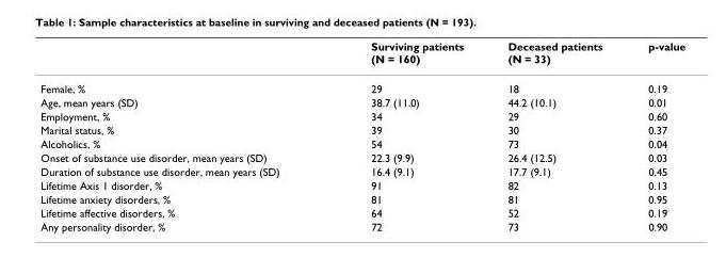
<table><thead><tr><td></td><td>Surviving patients (N = 160)</td><td>Deceased patients (N = 33)</td><td>p-value</td></tr></thead><tbody><tr><td>Female, %</td><td>29</td><td>18</td><td>0.19</td></tr><tr><td>Age, mean years (SD)</td><td>38.7 (11.0)</td><td>44.2 (10.1)</td><td>0.01</td></tr><tr><td>Employment, %</td><td>34</td><td>29</td><td>0.60</td></tr><tr><td>Marital status, %</td><td>39</td><td>30</td><td>0.37</td></tr><tr><td>Alcoholics, %</td><td>54</td><td>73</td><td>0.04</td></tr><tr><td>Onset of substance use disorder, mean years (SD)</td><td>22.3 (9.9)</td><td>26.4 (12.5)</td><td>0.03</td></tr><tr><td>Duration of substance use disorder, mean years (SD)</td><td>16.4 (9.1)</td><td>17.7 (9.1)</td><td>0.45</td></tr><tr><td>Lifetime Axis 1 disorder, %</td><td>91</td><td>82</td><td>0.13</td></tr><tr><td>Lifetime anxiety disorders, %</td><td>81</td><td>81</td><td>0.95</td></tr><tr><td>Lifetime affective disorders, %</td><td>64</td><td>52</td><td>0.19</td></tr><tr><td>Any personality disorder, %</td><td>72</td><td>73</td><td>0.90</td></tr></tbody></table>